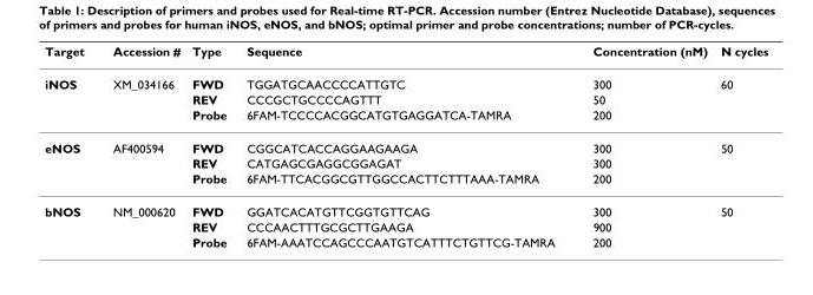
<table><thead><tr><td>Target</td><td>Accession #</td><td>Type</td><td>Sequence</td><td>Concentration (nM)</td><td>N cycles</td></tr></thead><tbody><tr><td rowspan="3">iNOS</td><td>XM_034166</td><td>FWD</td><td>TGGATGCAACCCCATTGTC</td><td>300</td><td>60</td></tr><tr><td></td><td>REV</td><td>CCCGCTGCCCCAGTTT</td><td>50</td><td></td></tr><tr><td></td><td>Probe</td><td>6FAM-TCCCCACGGCATGTGAGGATCA-TAMRA</td><td>200</td><td></td></tr><tr><td rowspan="3">eNOS</td><td>AF400594</td><td>FWD</td><td>CGGCATCACCAGGAAGAAGA</td><td>300</td><td>50</td></tr><tr><td></td><td>REV</td><td>CATGAGCGAGGCGGAGAT</td><td>300</td><td></td></tr><tr><td></td><td>Probe</td><td>6FAM-TTCACGGCGTTGGCCACTTCTTTAAA-TAMRA</td><td>200</td><td></td></tr><tr><td rowspan="3">bNOS</td><td>NM_000620</td><td>FWD</td><td>GGATCACATGTTCGGTGTTCAG</td><td>300</td><td>50</td></tr><tr><td></td><td>REV</td><td>CCCAACTTTGCGCTTGAAGA</td><td>900</td><td></td></tr><tr><td></td><td>Probe</td><td>6FAM-AAATCCAGCCCAATGTCATTTCTGTTCG-TAMRA</td><td>200</td><td></td></tr></tbody></table>